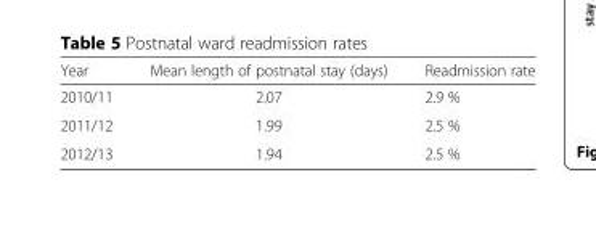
<table><thead><tr><td>Year</td><td>Mean length of postnatal stay (days)</td><td>Readmission rate</td></tr></thead><tbody><tr><td>2010/11</td><td>2.07</td><td>2.9 %</td></tr><tr><td>2011/12</td><td>1.99</td><td>2.5 %</td></tr><tr><td>2012/13</td><td>1.94</td><td>2.5 %</td></tr></tbody></table>